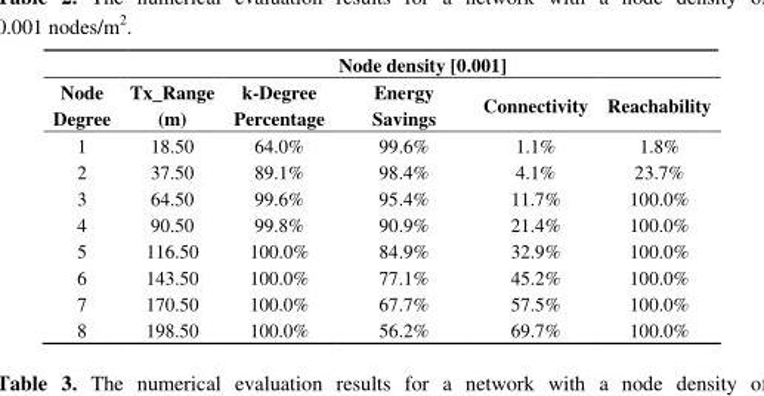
<table><thead><tr><td rowspan="2">Node Degree</td><td colspan="5">Node density [0.001]</td></tr><tr><td>Tx_Range (m)</td><td>k-Degree Percentage</td><td>Energy Savings</td><td>Connectivity</td><td>Reachability</td></tr></thead><tbody><tr><td>1</td><td>18.50</td><td>64.0%</td><td>99.6%</td><td>1.1%</td><td>1.8%</td></tr><tr><td>2</td><td>37.50</td><td>89.1%</td><td>98.4%</td><td>4.1%</td><td>23.7%</td></tr><tr><td>3</td><td>64.50</td><td>99.6%</td><td>95.4%</td><td>11.7%</td><td>100.0%</td></tr><tr><td>4</td><td>90.50</td><td>99.8%</td><td>90.9%</td><td>21.4%</td><td>100.0%</td></tr><tr><td>5</td><td>116.50</td><td>100.0%</td><td>84.9%</td><td>32.9%</td><td>100.0%</td></tr><tr><td>6</td><td>143.50</td><td>100.0%</td><td>77.1%</td><td>45.2%</td><td>100.0%</td></tr><tr><td>7</td><td>170.50</td><td>100.0%</td><td>67.7%</td><td>57.5%</td><td>100.0%</td></tr><tr><td>8</td><td>198.50</td><td>100.0%</td><td>56.2%</td><td>69.7%</td><td>100.0%</td></tr></tbody></table>